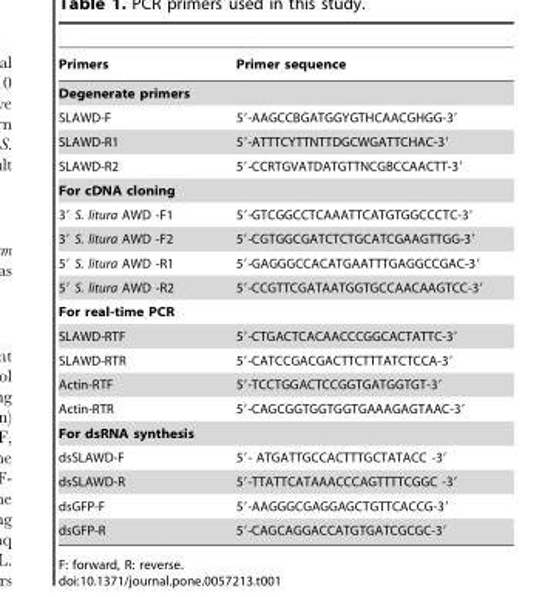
<table><thead><tr><td>Primers</td><td>Primer sequence</td></tr></thead><tbody><tr><td colspan="2">Degenerate primers</td></tr><tr><td>SLAWD-F</td><td>5′-AAGCCBGATGGYGTHCAACGHGG-3′</td></tr><tr><td>SLAWD-R1</td><td>5′-ATTTCYTTNTTDGCWGATTCHAC-3′</td></tr><tr><td>SLAWD-R2</td><td>5′-CCRTGVATDATGTTNCGBCCAACTT-3′</td></tr><tr><td colspan="2">For cDNA cloning</td></tr><tr><td>3′ S. litura AWD -F1</td><td>5′-GTCGGCCTCAAATTCATGTGGCCCTC-3′</td></tr><tr><td>3′ S. litura AWD -F2</td><td>5′-CGTGGCGATCTCTGCATCGAAGTTGG-3′</td></tr><tr><td>5′ S. litura AWD -R1</td><td>5′-GAGGGCCACATGAATTTGAGGCCGAC-3′</td></tr><tr><td>5′ S. litura AWD -R2</td><td>5′-CCGTTCGATAATGGTGCCAACAAGTCC-3′</td></tr><tr><td colspan="2">For real-time PCR</td></tr><tr><td>SLAWD-RTF</td><td>5′-CTGACTCACAACCCGGCACTATTC-3′</td></tr><tr><td>SLAWD-RTR</td><td>5′-CATCCGACGACTTCTTTATCTCCA-3′</td></tr><tr><td>Actin-RTF</td><td>5′-TCCTGGACTCCGGTGATGGTGT-3′</td></tr><tr><td>Actin-RTR</td><td>5′-CAGCGGTGGTGGTGAAAGAGTAAC-3′</td></tr><tr><td colspan="2">For dsRNA synthesis</td></tr><tr><td>dsSLAWD-F</td><td>5′- ATGATTGCCACTTTGCTATACC -3′</td></tr><tr><td>dsSLAWD-R</td><td>5′-TTATTCATAAACCCAGTTTTCGGC -3′</td></tr><tr><td>dsGFP-F</td><td>5′-AAGGGCGAGGAGCTGTTCACCG-3′</td></tr><tr><td>dsGFP-R</td><td>5′-CAGCAGGACCATGTGATCGCGC-3′</td></tr></tbody></table>